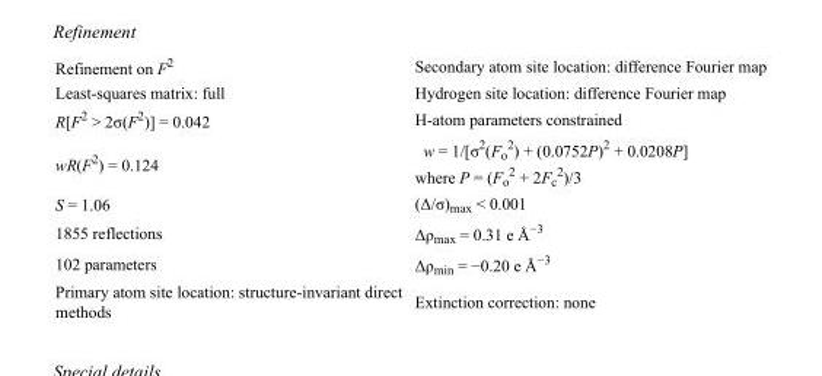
<table><tbody><tr><td>Refinement on F<sup>2</sup></td><td>Secondary atom site location: difference Fourier map</td></tr><tr><td>Least-squares matrix: full</td><td>Hydrogen site location: difference Fourier map</td></tr><tr><td>R[F<sup>2</sup> &gt; 2σ(F<sup>2</sup>)] = 0.042</td><td>H-atom parameters constrained</td></tr><tr><td>wR(F<sup>2</sup>) = 0.124</td><td>w = 1/[σ<sup>2</sup>(F<sub>o</sub> <sup>2</sup>) + (0.0752P)<sup>2</sup> + 0.0208P] where P = (F<sub>o</sub> <sup>2</sup> + 2F<sub>c</sub> <sup>2</sup>)/3</td></tr><tr><td>S = 1.06</td><td>(Δ/σ)<sub>max</sub> &lt; 0.001</td></tr><tr><td>1855 reflections</td><td>Δρ<sub>max</sub> = 0.31 e Å<sup>−3</sup></td></tr><tr><td>102 parameters</td><td>Δρ<sub>min</sub> = −0.20 e Å<sup>−3</sup></td></tr><tr><td>Primary atom site location: structure-invariant direct methods</td><td>Extinction correction: none</td></tr></tbody></table>